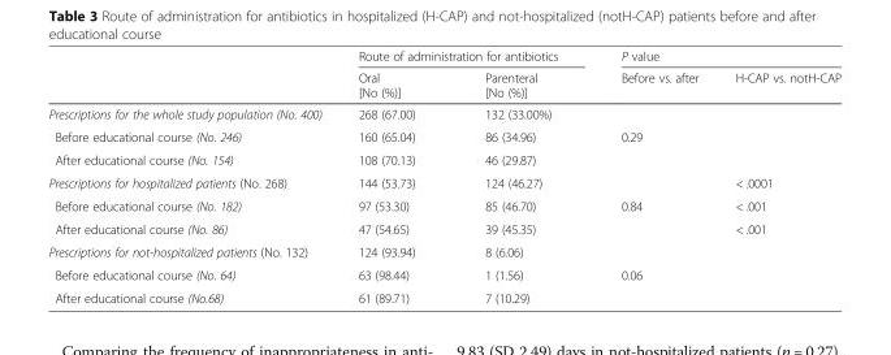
<table><thead><tr><td rowspan="2"></td><td colspan="2">Route of administration for antibiotics</td><td colspan="2">P value</td></tr><tr><td>Oral [No (%)]</td><td>Parenteral [No (%)]</td><td>Before vs. after</td><td>H-CAP vs. notH-CAP</td></tr></thead><tbody><tr><td>Prescriptions for the whole study population (No. 400)</td><td>268 (67.00)</td><td>132 (33.00%)</td><td></td><td></td></tr><tr><td>Before educational course (No. 246)</td><td>160 (65.04)</td><td>86 (34.96)</td><td rowspan="2">0.29</td><td></td></tr><tr><td>After educational course (No. 154)</td><td>108 (70.13)</td><td>46 (29.87)</td><td></td></tr><tr><td>Prescriptions for hospitalized patients (No. 268)</td><td>144 (53.73)</td><td>124 (46.27)</td><td></td><td>&lt; .0001</td></tr><tr><td>Before educational course (No. 182)</td><td>97 (53.30)</td><td>85 (46.70)</td><td rowspan="2">0.84</td><td>&lt; .001</td></tr><tr><td>After educational course (No. 86)</td><td>47 (54.65)</td><td>39 (45.35)</td><td>&lt; .001</td></tr><tr><td>Prescriptions for not-hospitalized patients (No. 132)</td><td>124 (93.94)</td><td>8 (6.06)</td><td></td><td></td></tr><tr><td>Before educational course (No. 64)</td><td>63 (98.44)</td><td>1 (1.56)</td><td rowspan="2">0.06</td><td></td></tr><tr><td>After educational course (No.68)</td><td>61 (89.71)</td><td>7 (10.29)</td><td></td></tr></tbody></table>